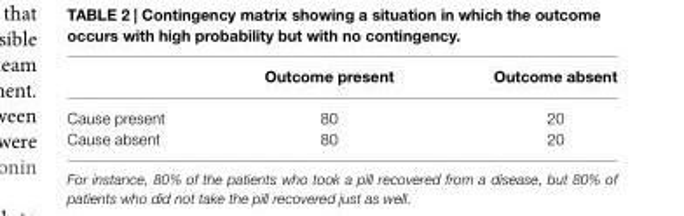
<table><thead><tr><td></td><td>Outcome present</td><td>Outcome absent</td></tr></thead><tbody><tr><td>Cause present</td><td>80</td><td>20</td></tr><tr><td>Cause absent</td><td>80</td><td>20</td></tr></tbody></table>